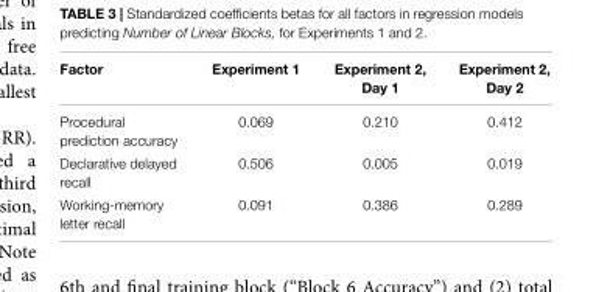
<table><thead><tr><td>Factor</td><td>Experiment 1</td><td>Experiment 2, Day 1</td><td>Experiment 2, Day 2</td></tr></thead><tbody><tr><td>Procedural prediction accuracy</td><td>0.069</td><td>0.210</td><td>0.412</td></tr><tr><td>Declarative delayed recall</td><td>0.506</td><td>0.005</td><td>0.019</td></tr><tr><td>Working-memory letter recall</td><td>0.091</td><td>0.386</td><td>0.289</td></tr></tbody></table>